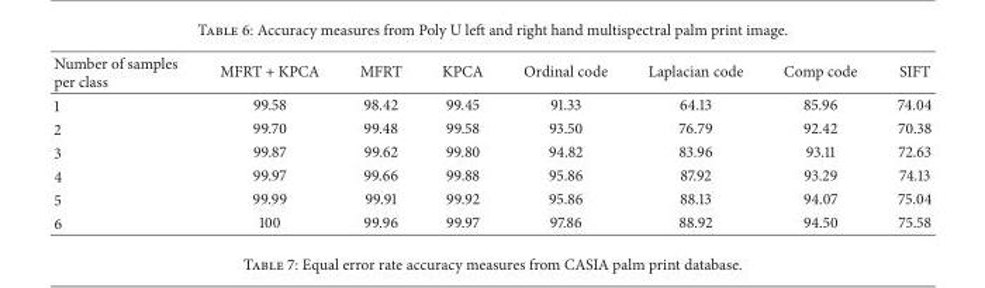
<table><thead><tr><td>Number of samples per class</td><td>MFRT + KPCA</td><td>MFRT</td><td>KPCA</td><td>Ordinal code</td><td>Laplacian code</td><td>Comp code</td><td>SIFT</td></tr></thead><tbody><tr><td>1</td><td>99.58</td><td>98.42</td><td>99.45</td><td>91.33</td><td>64.13</td><td>85.96</td><td>74.04</td></tr><tr><td>2</td><td>99.70</td><td>99.48</td><td>99.58</td><td>93.50</td><td>76.79</td><td>92.42</td><td>70.38</td></tr><tr><td>3</td><td>99.87</td><td>99.62</td><td>99.80</td><td>94.82</td><td>83.96</td><td>93.11</td><td>72.63</td></tr><tr><td>4</td><td>99.97</td><td>99.66</td><td>99.88</td><td>95.86</td><td>87.92</td><td>93.29</td><td>74.13</td></tr><tr><td>5</td><td>99.99</td><td>99.91</td><td>99.92</td><td>95.86</td><td>88.13</td><td>94.07</td><td>75.04</td></tr><tr><td>6</td><td>100</td><td>99.96</td><td>99.97</td><td>97.86</td><td>88.92</td><td>94.50</td><td>75.58</td></tr></tbody></table>